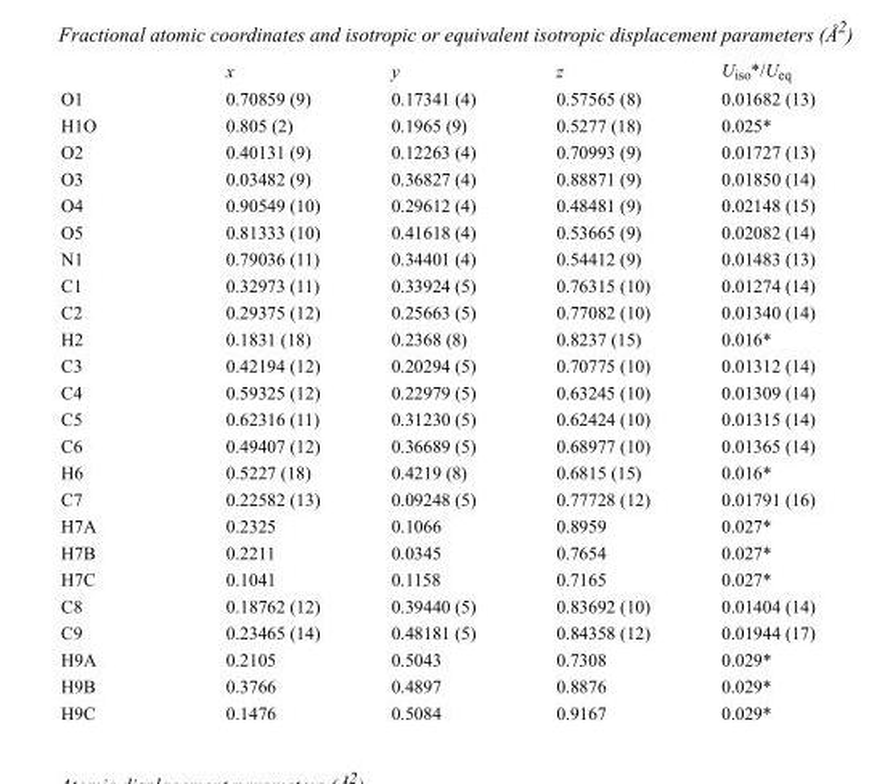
<table><thead><tr><td></td><td>x</td><td>y</td><td>z</td><td>U<sub>iso</sub>*/U<sub>eq</sub></td></tr></thead><tbody><tr><td>O1</td><td>0.70859 (9)</td><td>0.17341 (4)</td><td>0.57565 (8)</td><td>0.01682 (13)</td></tr><tr><td>H1O</td><td>0.805 (2)</td><td>0.1965 (9)</td><td>0.5277 (18)</td><td>0.025*</td></tr><tr><td>O2</td><td>0.40131 (9)</td><td>0.12263 (4)</td><td>0.70993 (9)</td><td>0.01727 (13)</td></tr><tr><td>O3</td><td>0.03482 (9)</td><td>0.36827 (4)</td><td>0.88871 (9)</td><td>0.01850 (14)</td></tr><tr><td>O4</td><td>0.90549 (10)</td><td>0.29612 (4)</td><td>0.48481 (9)</td><td>0.02148 (15)</td></tr><tr><td>O5</td><td>0.81333 (10)</td><td>0.41618 (4)</td><td>0.53665 (9)</td><td>0.02082 (14)</td></tr><tr><td>N1</td><td>0.79036 (11)</td><td>0.34401 (4)</td><td>0.54412 (9)</td><td>0.01483 (13)</td></tr><tr><td>C1</td><td>0.32973 (11)</td><td>0.33924 (5)</td><td>0.76315 (10)</td><td>0.01274 (14)</td></tr><tr><td>C2</td><td>0.29375 (12)</td><td>0.25663 (5)</td><td>0.77082 (10)</td><td>0.01340 (14)</td></tr><tr><td>H2</td><td>0.1831 (18)</td><td>0.2368 (8)</td><td>0.8237 (15)</td><td>0.016*</td></tr><tr><td>C3</td><td>0.42194 (12)</td><td>0.20294 (5)</td><td>0.70775 (10)</td><td>0.01312 (14)</td></tr><tr><td>C4</td><td>0.59325 (12)</td><td>0.22979 (5)</td><td>0.63245 (10)</td><td>0.01309 (14)</td></tr><tr><td>C5</td><td>0.62316 (11)</td><td>0.31230 (5)</td><td>0.62424 (10)</td><td>0.01315 (14)</td></tr><tr><td>C6</td><td>0.49407 (12)</td><td>0.36689 (5)</td><td>0.68977 (10)</td><td>0.01365 (14)</td></tr><tr><td>H6</td><td>0.5227 (18)</td><td>0.4219 (8)</td><td>0.6815 (15)</td><td>0.016*</td></tr><tr><td>C7</td><td>0.22582 (13)</td><td>0.09248 (5)</td><td>0.77728 (12)</td><td>0.01791 (16)</td></tr><tr><td>H7A</td><td>0.2325</td><td>0.1066</td><td>0.8959</td><td>0.027*</td></tr><tr><td>H7B</td><td>0.2211</td><td>0.0345</td><td>0.7654</td><td>0.027*</td></tr><tr><td>H7C</td><td>0.1041</td><td>0.1158</td><td>0.7165</td><td>0.027*</td></tr><tr><td>C8</td><td>0.18762 (12)</td><td>0.39440 (5)</td><td>0.83692 (10)</td><td>0.01404 (14)</td></tr><tr><td>C9</td><td>0.23465 (14)</td><td>0.48181 (5)</td><td>0.84358 (12)</td><td>0.01944 (17)</td></tr><tr><td>H9A</td><td>0.2105</td><td>0.5043</td><td>0.7308</td><td>0.029*</td></tr><tr><td>H9B</td><td>0.3766</td><td>0.4897</td><td>0.8876</td><td>0.029*</td></tr><tr><td>H9C</td><td>0.1476</td><td>0.5084</td><td>0.9167</td><td>0.029*</td></tr></tbody></table>